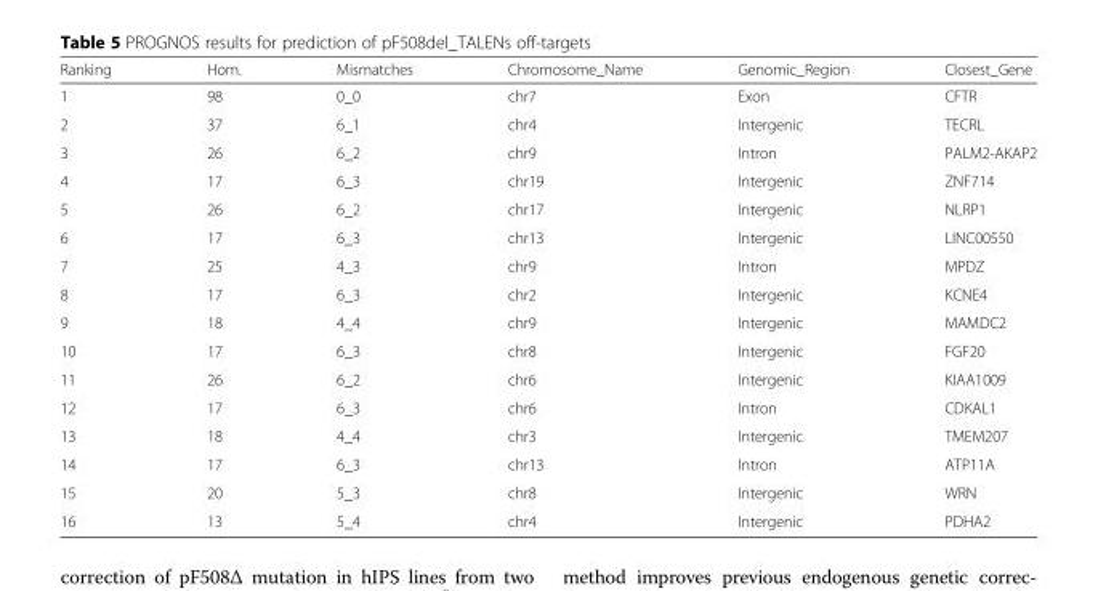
<table><thead><tr><td>Ranking</td><td>Hom.</td><td>Mismatches</td><td>Chromosome_Name</td><td>Genomic_Region</td><td>Closest_Gene</td></tr></thead><tbody><tr><td>1</td><td>98</td><td>0_0</td><td>chr7</td><td>Exon</td><td>CFTR</td></tr><tr><td>2</td><td>37</td><td>6_1</td><td>chr4</td><td>Intergenic</td><td>TECRL</td></tr><tr><td>3</td><td>26</td><td>6_2</td><td>chr9</td><td>Intron</td><td>PALM2-AKAP2</td></tr><tr><td>4</td><td>17</td><td>6_3</td><td>chr19</td><td>Intergenic</td><td>ZNF714</td></tr><tr><td>5</td><td>26</td><td>6_2</td><td>chr17</td><td>Intergenic</td><td>NLRP1</td></tr><tr><td>6</td><td>17</td><td>6_3</td><td>chr13</td><td>Intergenic</td><td>LINC00550</td></tr><tr><td>7</td><td>25</td><td>4_3</td><td>chr9</td><td>Intron</td><td>MPDZ</td></tr><tr><td>8</td><td>17</td><td>6_3</td><td>chr2</td><td>Intergenic</td><td>KCNE4</td></tr><tr><td>9</td><td>18</td><td>4_4</td><td>chr9</td><td>Intergenic</td><td>MAMDC2</td></tr><tr><td>10</td><td>17</td><td>6_3</td><td>chr8</td><td>Intergenic</td><td>FGF20</td></tr><tr><td>11</td><td>26</td><td>6_2</td><td>chr6</td><td>Intergenic</td><td>KIAA1009</td></tr><tr><td>12</td><td>17</td><td>6_3</td><td>chr6</td><td>Intron</td><td>CDKAL1</td></tr><tr><td>13</td><td>18</td><td>4_4</td><td>chr3</td><td>Intergenic</td><td>TMEM207</td></tr><tr><td>14</td><td>17</td><td>6_3</td><td>chr13</td><td>Intron</td><td>ATP11A</td></tr><tr><td>15</td><td>20</td><td>5_3</td><td>chr8</td><td>Intergenic</td><td>WRN</td></tr><tr><td>16</td><td>13</td><td>5_4</td><td>chr4</td><td>Intergenic</td><td>PDHA2</td></tr></tbody></table>